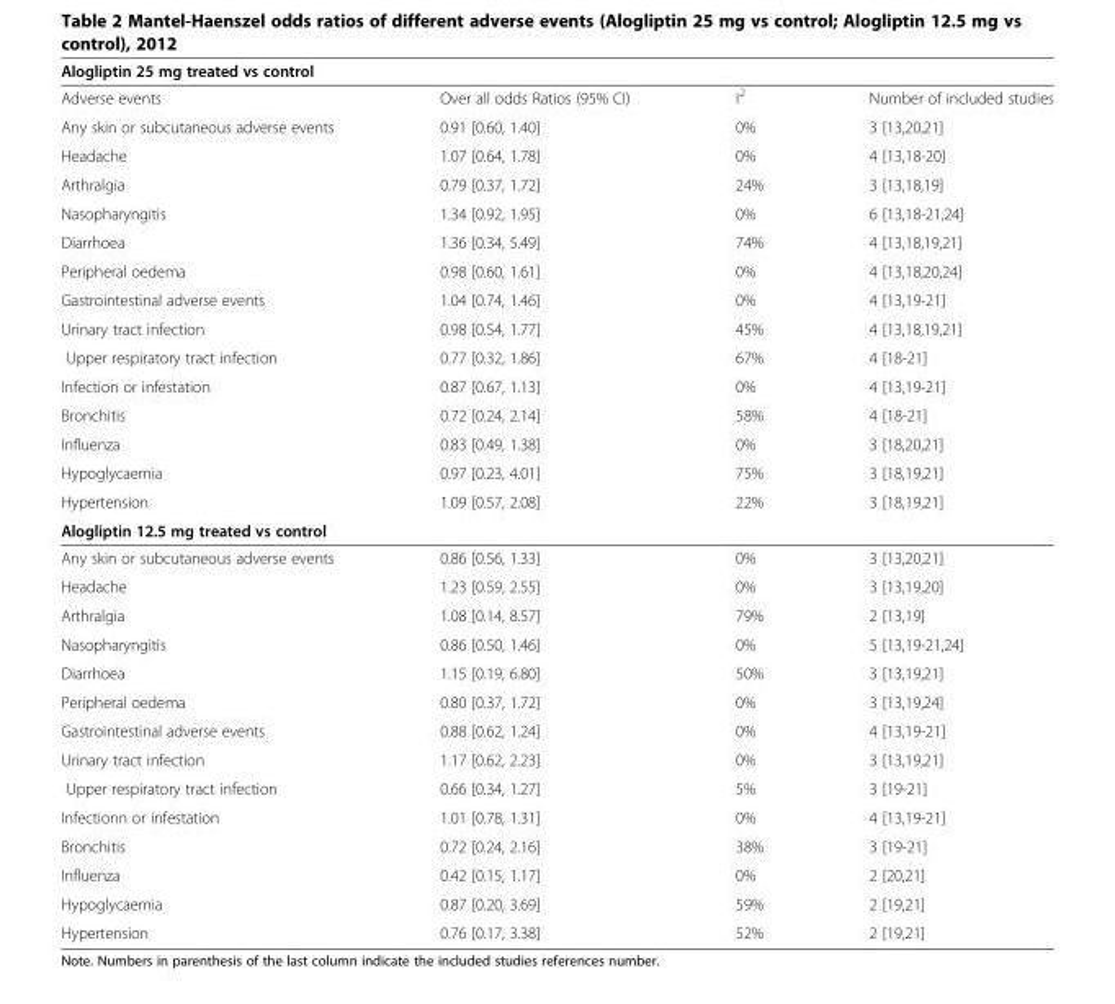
<table><tbody><tr><td colspan="4">Alogliptin 25 mg treated vs control</td></tr><tr><td>Adverse events</td><td>Over all odds Ratios (95% CI)</td><td>I<sup>2</sup></td><td>Number of included studies</td></tr><tr><td>Any skin or subcutaneous adverse events</td><td>0.91 [0.60, 1.40]</td><td>0%</td><td>3 [13,20,21]</td></tr><tr><td>Headache</td><td>1.07 [0.64, 1.78]</td><td>0%</td><td>4 [13,18-20]</td></tr><tr><td>Arthralgia</td><td>0.79 [0.37, 1.72]</td><td>24%</td><td>3 [13,18,19]</td></tr><tr><td>Nasopharyngitis</td><td>1.34 [0.92, 1.95]</td><td>0%</td><td>6 [13,18-21,24]</td></tr><tr><td>Diarrhoea</td><td>1.36 [0.34, 5.49]</td><td>74%</td><td>4 [13,18,19,21]</td></tr><tr><td>Peripheral oedema</td><td>0.98 [0.60, 1.61]</td><td>0%</td><td>4 [13,18,20,24]</td></tr><tr><td>Gastrointestinal adverse events</td><td>1.04 [0.74, 1.46]</td><td>0%</td><td>4 [13,19-21]</td></tr><tr><td>Urinary tract infection</td><td>0.98 [0.54, 1.77]</td><td>45%</td><td>4 [13,18,19,21]</td></tr><tr><td>Upper respiratory tract infection</td><td>0.77 [0.32, 1.86]</td><td>67%</td><td>4 [18-21]</td></tr><tr><td>Infection or infestation</td><td>0.87 [0.67, 1.13]</td><td>0%</td><td>4 [13,19-21]</td></tr><tr><td>Bronchitis</td><td>0.72 [0.24, 2.14]</td><td>58%</td><td>4 [18-21]</td></tr><tr><td>Influenza</td><td>0.83 [0.49, 1.38]</td><td>0%</td><td>3 [18,20,21]</td></tr><tr><td>Hypoglycaemia</td><td>0.97 [0.23, 4.01]</td><td>75%</td><td>3 [18,19,21]</td></tr><tr><td>Hypertension</td><td>1.09 [0.57, 2.08]</td><td>22%</td><td>3 [18,19,21]</td></tr><tr><td colspan="4">Alogliptin 12.5 mg treated vs control</td></tr><tr><td>Any skin or subcutaneous adverse events</td><td>0.86 [0.56, 1.33]</td><td>0%</td><td>3 [13,20,21]</td></tr><tr><td>Headache</td><td>1.23 [0.59, 2.55]</td><td>0%</td><td>3 [13,19,20]</td></tr><tr><td>Arthralgia</td><td>1.08 [0.14, 8.57]</td><td>79%</td><td>2 [13,19]</td></tr><tr><td>Nasopharyngitis</td><td>0.86 [0.50, 1.46]</td><td>0%</td><td>5 [13,19-21,24]</td></tr><tr><td>Diarrhoea</td><td>1.15 [0.19, 6.80]</td><td>50%</td><td>3 [13,19,21]</td></tr><tr><td>Peripheral oedema</td><td>0.80 [0.37, 1.72]</td><td>0%</td><td>3 [13,19,24]</td></tr><tr><td>Gastrointestinal adverse events</td><td>0.88 [0.62, 1.24]</td><td>0%</td><td>4 [13,19-21]</td></tr><tr><td>Urinary tract infection</td><td>1.17 [0.62, 2.23]</td><td>0%</td><td>3 [13,19,21]</td></tr><tr><td>Upper respiratory tract infection</td><td>0.66 [0.34, 1.27]</td><td>5%</td><td>3 [19-21]</td></tr><tr><td>Infectionn or infestation</td><td>1.01 [0.78, 1.31]</td><td>0%</td><td>4 [13,19-21]</td></tr><tr><td>Bronchitis</td><td>0.72 [0.24, 2.16]</td><td>38%</td><td>3 [19-21]</td></tr><tr><td>Influenza</td><td>0.42 [0.15, 1.17]</td><td>0%</td><td>2 [20,21]</td></tr><tr><td>Hypoglycaemia</td><td>0.87 [0.20, 3.69]</td><td>59%</td><td>2 [19,21]</td></tr><tr><td>Hypertension</td><td>0.76 [0.17, 3.38]</td><td>52%</td><td>2 [19,21]</td></tr></tbody></table>